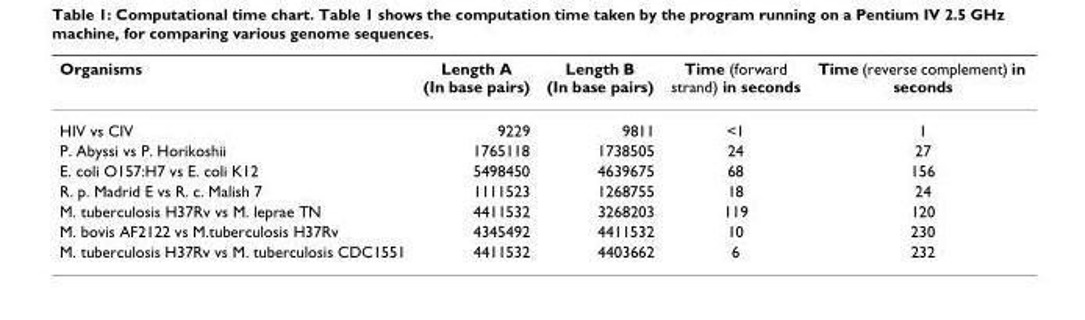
<table><thead><tr><td>Organisms</td><td>Length A (In base pairs)</td><td>Length B (In base pairs)</td><td>Time (forward strand) in seconds</td><td>Time (reverse complement) in seconds</td></tr></thead><tbody><tr><td>HIV vs CIV</td><td>9229</td><td>9811</td><td>&lt;1</td><td>1</td></tr><tr><td>P. Abyssi vs P. Horikoshii</td><td>1765118</td><td>1738505</td><td>24</td><td>27</td></tr><tr><td>E. coli O157:H7 vs E. coli K12</td><td>5498450</td><td>4639675</td><td>68</td><td>156</td></tr><tr><td>R. p. Madrid E vs R. c. Malish 7</td><td>1111523</td><td>1268755</td><td>18</td><td>24</td></tr><tr><td>M. tuberculosis H37Rv vs M. leprae TN</td><td>4411532</td><td>3268203</td><td>119</td><td>120</td></tr><tr><td>M. bovis AF2122 vs M.tuberculosis H37Rv</td><td>4345492</td><td>4411532</td><td>10</td><td>230</td></tr><tr><td>M. tuberculosis H37Rv vs M. tuberculosis CDC1551</td><td>4411532</td><td>4403662</td><td>6</td><td>232</td></tr></tbody></table>